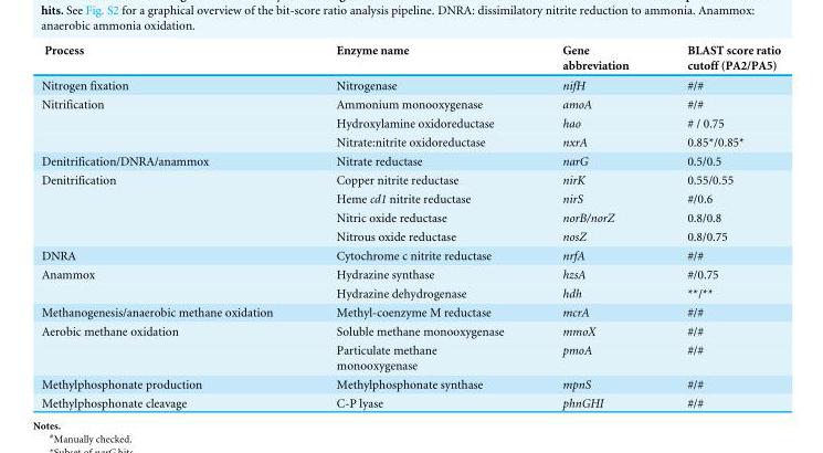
<table><thead><tr><td>Process</td><td>Enzyme name</td><td>Gene abbreviation</td><td>BLAST score ratio cutoff (PA2/PA5)</td></tr></thead><tbody><tr><td>Nitrogen fixation</td><td>Nitrogenase</td><td>nifH</td><td>#/#</td></tr><tr><td rowspan="3">Nitrification</td><td>Ammonium monooxygenase</td><td>amoA</td><td>#/#</td></tr><tr><td>Hydroxylamine oxidoreductase</td><td>hao</td><td># / 0.75</td></tr><tr><td>Nitrate:nitrite oxidoreductase</td><td>nxrA</td><td>0.85*/0.85*</td></tr><tr><td>Denitrification/DNRA/anammox</td><td>Nitrate reductase</td><td>narG</td><td>0.5/0.5</td></tr><tr><td rowspan="4">Denitrification</td><td>Copper nitrite reductase</td><td>nirK</td><td>0.55/0.55</td></tr><tr><td>Heme cd1 nitrite reductase</td><td>nirS</td><td>#/0.6</td></tr><tr><td>Nitric oxide reductase</td><td>norB/norZ</td><td>0.8/0.8</td></tr><tr><td>Nitrous oxide reductase</td><td>nosZ</td><td>0.8/0.75</td></tr><tr><td>DNRA</td><td>Cytochrome c nitrite reductase</td><td>nrfA</td><td>#/#</td></tr><tr><td rowspan="2">Anammox</td><td>Hydrazine synthase</td><td>hzsA</td><td>#/0.75</td></tr><tr><td>Hydrazine dehydrogenase</td><td>hdh</td><td>**/**</td></tr><tr><td>Methanogenesis/anaerobic methane oxidation</td><td>Methyl-coenzyme M reductase</td><td>mcrA</td><td>#/#</td></tr><tr><td rowspan="2">Aerobic methane oxidation</td><td>Soluble methane monooxygenase</td><td>mmoX</td><td>#/#</td></tr><tr><td>Particulate methane monooxygenase</td><td>pmoA</td><td>#/#</td></tr><tr><td>Methylphosphonate production</td><td>Methylphosphonate synthase</td><td>mpnS</td><td>#/#</td></tr><tr><td>Methylphosphonate cleavage</td><td>C-P lyase</td><td>phnGHI</td><td>#/#</td></tr></tbody></table>